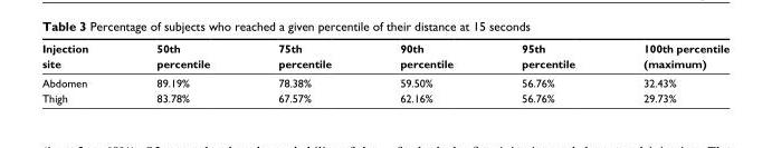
<table><thead><tr><td>Injection site</td><td>50th percentile</td><td>75th percentile</td><td>90th percentile</td><td>95th percentile</td><td>100th percentile (maximum)</td></tr></thead><tbody><tr><td>Abdomen</td><td>89.19%</td><td>78.38%</td><td>59.50%</td><td>56.76%</td><td>32.43%</td></tr><tr><td>Thigh</td><td>83.78%</td><td>67.57%</td><td>62.16%</td><td>56.76%</td><td>29.73%</td></tr></tbody></table>